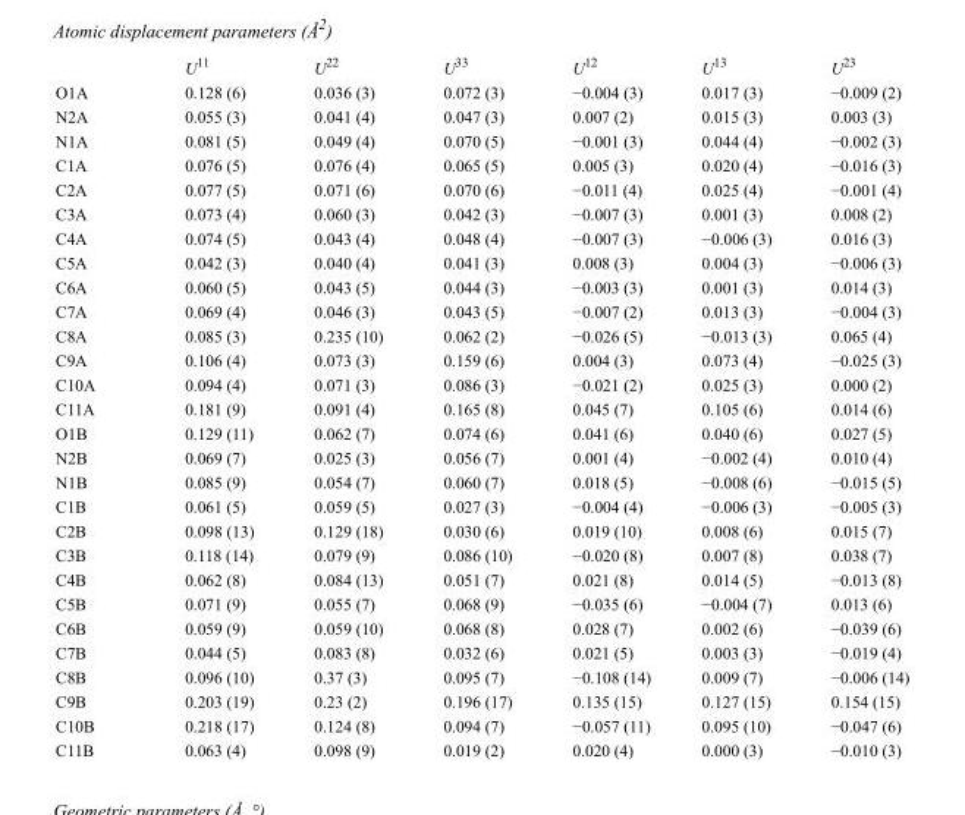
<table><thead><tr><td></td><td>U<sup>11</sup></td><td>U<sup>22</sup></td><td>U<sup>33</sup></td><td>U<sup>12</sup></td><td>U<sup>13</sup></td><td>U<sup>23</sup></td></tr></thead><tbody><tr><td>O1A</td><td>0.128 (6)</td><td>0.036 (3)</td><td>0.072 (3)</td><td>−0.004 (3)</td><td>0.017 (3)</td><td>−0.009 (2)</td></tr><tr><td>N2A</td><td>0.055 (3)</td><td>0.041 (4)</td><td>0.047 (3)</td><td>0.007 (2)</td><td>0.015 (3)</td><td>0.003 (3)</td></tr><tr><td>N1A</td><td>0.081 (5)</td><td>0.049 (4)</td><td>0.070 (5)</td><td>−0.001 (3)</td><td>0.044 (4)</td><td>−0.002 (3)</td></tr><tr><td>C1A</td><td>0.076 (5)</td><td>0.076 (4)</td><td>0.065 (5)</td><td>0.005 (3)</td><td>0.020 (4)</td><td>−0.016 (3)</td></tr><tr><td>C2A</td><td>0.077 (5)</td><td>0.071 (6)</td><td>0.070 (6)</td><td>−0.011 (4)</td><td>0.025 (4)</td><td>−0.001 (4)</td></tr><tr><td>C3A</td><td>0.073 (4)</td><td>0.060 (3)</td><td>0.042 (3)</td><td>−0.007 (3)</td><td>0.001 (3)</td><td>0.008 (2)</td></tr><tr><td>C4A</td><td>0.074 (5)</td><td>0.043 (4)</td><td>0.048 (4)</td><td>−0.007 (3)</td><td>−0.006 (3)</td><td>0.016 (3)</td></tr><tr><td>C5A</td><td>0.042 (3)</td><td>0.040 (4)</td><td>0.041 (3)</td><td>0.008 (3)</td><td>0.004 (3)</td><td>−0.006 (3)</td></tr><tr><td>C6A</td><td>0.060 (5)</td><td>0.043 (5)</td><td>0.044 (3)</td><td>−0.003 (3)</td><td>0.001 (3)</td><td>0.014 (3)</td></tr><tr><td>C7A</td><td>0.069 (4)</td><td>0.046 (3)</td><td>0.043 (5)</td><td>−0.007 (2)</td><td>0.013 (3)</td><td>−0.004 (3)</td></tr><tr><td>C8A</td><td>0.085 (3)</td><td>0.235 (10)</td><td>0.062 (2)</td><td>−0.026 (5)</td><td>−0.013 (3)</td><td>0.065 (4)</td></tr><tr><td>C9A</td><td>0.106 (4)</td><td>0.073 (3)</td><td>0.159 (6)</td><td>0.004 (3)</td><td>0.073 (4)</td><td>−0.025 (3)</td></tr><tr><td>C10A</td><td>0.094 (4)</td><td>0.071 (3)</td><td>0.086 (3)</td><td>−0.021 (2)</td><td>0.025 (3)</td><td>0.000 (2)</td></tr><tr><td>C11A</td><td>0.181 (9)</td><td>0.091 (4)</td><td>0.165 (8)</td><td>0.045 (7)</td><td>0.105 (6)</td><td>0.014 (6)</td></tr><tr><td>O1B</td><td>0.129 (11)</td><td>0.062 (7)</td><td>0.074 (6)</td><td>0.041 (6)</td><td>0.040 (6)</td><td>0.027 (5)</td></tr><tr><td>N2B</td><td>0.069 (7)</td><td>0.025 (3)</td><td>0.056 (7)</td><td>0.001 (4)</td><td>−0.002 (4)</td><td>0.010 (4)</td></tr><tr><td>N1B</td><td>0.085 (9)</td><td>0.054 (7)</td><td>0.060 (7)</td><td>0.018 (5)</td><td>−0.008 (6)</td><td>−0.015 (5)</td></tr><tr><td>C1B</td><td>0.061 (5)</td><td>0.059 (5)</td><td>0.027 (3)</td><td>−0.004 (4)</td><td>−0.006 (3)</td><td>−0.005 (3)</td></tr><tr><td>C2B</td><td>0.098 (13)</td><td>0.129 (18)</td><td>0.030 (6)</td><td>0.019 (10)</td><td>0.008 (6)</td><td>0.015 (7)</td></tr><tr><td>C3B</td><td>0.118 (14)</td><td>0.079 (9)</td><td>0.086 (10)</td><td>−0.020 (8)</td><td>0.007 (8)</td><td>0.038 (7)</td></tr><tr><td>C4B</td><td>0.062 (8)</td><td>0.084 (13)</td><td>0.051 (7)</td><td>0.021 (8)</td><td>0.014 (5)</td><td>−0.013 (8)</td></tr><tr><td>C5B</td><td>0.071 (9)</td><td>0.055 (7)</td><td>0.068 (9)</td><td>−0.035 (6)</td><td>−0.004 (7)</td><td>0.013 (6)</td></tr><tr><td>C6B</td><td>0.059 (9)</td><td>0.059 (10)</td><td>0.068 (8)</td><td>0.028 (7)</td><td>0.002 (6)</td><td>−0.039 (6)</td></tr><tr><td>C7B</td><td>0.044 (5)</td><td>0.083 (8)</td><td>0.032 (6)</td><td>0.021 (5)</td><td>0.003 (3)</td><td>−0.019 (4)</td></tr><tr><td>C8B</td><td>0.096 (10)</td><td>0.37 (3)</td><td>0.095 (7)</td><td>−0.108 (14)</td><td>0.009 (7)</td><td>−0.006 (14)</td></tr><tr><td>C9B</td><td>0.203 (19)</td><td>0.23 (2)</td><td>0.196 (17)</td><td>0.135 (15)</td><td>0.127 (15)</td><td>0.154 (15)</td></tr><tr><td>C10B</td><td>0.218 (17)</td><td>0.124 (8)</td><td>0.094 (7)</td><td>−0.057 (11)</td><td>0.095 (10)</td><td>−0.047 (6)</td></tr><tr><td>C11B</td><td>0.063 (4)</td><td>0.098 (9)</td><td>0.019 (2)</td><td>0.020 (4)</td><td>0.000 (3)</td><td>−0.010 (3)</td></tr></tbody></table>